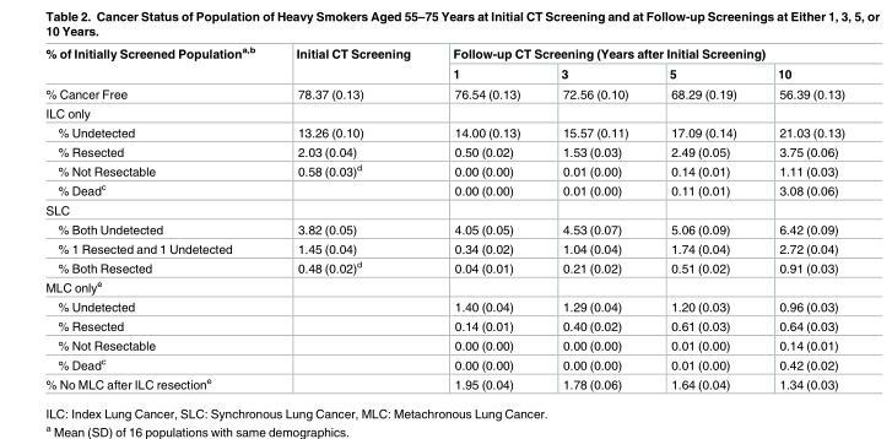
<table><thead><tr><td rowspan="2">% of Initially Screened Population<sup>a,b</sup></td><td rowspan="2">Initial CT Screening</td><td colspan="4">Follow-up CT Screening (Years after Initial Screening)</td></tr><tr><td>1</td><td>3</td><td>5</td><td>10</td></tr></thead><tbody><tr><td>% Cancer Free</td><td>78.37 (0.13)</td><td>76.54 (0.13)</td><td>72.56 (0.10)</td><td>68.29 (0.19)</td><td>56.39 (0.13)</td></tr><tr><td colspan="6">ILC only</td></tr><tr><td>% Undetected</td><td>13.26 (0.10)</td><td>14.00 (0.13)</td><td>15.57 (0.11)</td><td>17.09 (0.14)</td><td>21.03 (0.13)</td></tr><tr><td>% Resected</td><td>2.03 (0.04)</td><td>0.50 (0.02)</td><td>1.53 (0.03)</td><td>2.49 (0.05)</td><td>3.75 (0.06)</td></tr><tr><td>% Not Resectable</td><td>0.58 (0.03)<sup>d</sup></td><td>0.00 (0.00)</td><td>0.01 (0.00)</td><td>0.14 (0.01)</td><td>1.11 (0.03)</td></tr><tr><td>% Dead<sup>c</sup></td><td></td><td>0.00 (0.00)</td><td>0.01 (0.00)</td><td>0.11 (0.01)</td><td>3.08 (0.06)</td></tr><tr><td colspan="6">SLC</td></tr><tr><td>% Both Undetected</td><td>3.82 (0.05)</td><td>4.05 (0.05)</td><td>4.53 (0.07)</td><td>5.06 (0.09)</td><td>6.42 (0.09)</td></tr><tr><td>% 1 Resected and 1 Undetected</td><td>1.45 (0.04)</td><td>0.34 (0.02)</td><td>1.04 (0.04)</td><td>1.74 (0.04)</td><td>2.72 (0.04)</td></tr><tr><td>% Both Resected</td><td>0.48 (0.02)<sup>d</sup></td><td>0.04 (0.01)</td><td>0.21 (0.02)</td><td>0.51 (0.02)</td><td>0.91 (0.03)</td></tr><tr><td colspan="6">MLC only<sup>e</sup></td></tr><tr><td>% Undetected</td><td></td><td>1.40 (0.04)</td><td>1.29 (0.04)</td><td>1.20 (0.03)</td><td>0.96 (0.03)</td></tr><tr><td>% Resected</td><td></td><td>0.14 (0.01)</td><td>0.40 (0.02)</td><td>0.61 (0.03)</td><td>0.64 (0.03)</td></tr><tr><td>% Not Resectable</td><td></td><td>0.00 (0.00)</td><td>0.00 (0.00)</td><td>0.01 (0.00)</td><td>0.14 (0.01)</td></tr><tr><td>% Dead<sup>c</sup></td><td></td><td>0.00 (0.00)</td><td>0.00 (0.00)</td><td>0.01 (0.00)</td><td>0.42 (0.02)</td></tr><tr><td>% No MLC after ILC resection<sup>e</sup></td><td></td><td>1.95 (0.04)</td><td>1.78 (0.06)</td><td>1.64 (0.04)</td><td>1.34 (0.03)</td></tr></tbody></table>